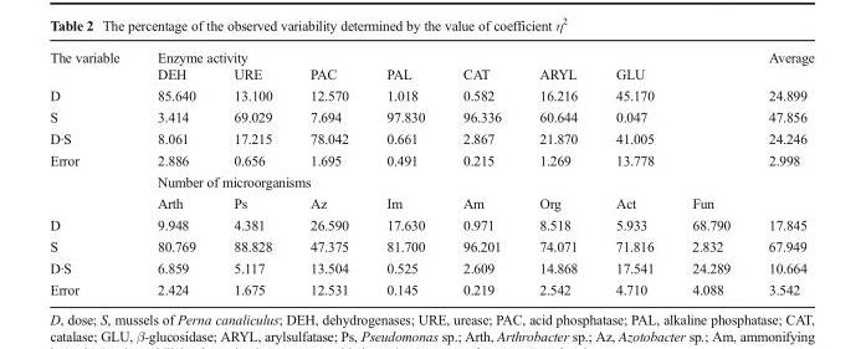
<table><tbody><tr><td rowspan="2">The variable</td><td colspan="8">Enzyme activity</td><td rowspan="2">Average</td></tr><tr><td>DEH</td><td>URE</td><td>PAC</td><td>PAL</td><td>CAT</td><td>ARYL</td><td colspan="2">GLU</td></tr><tr><td>D</td><td>85.640</td><td>13.100</td><td>12.570</td><td>1.018</td><td>0.582</td><td>16.216</td><td colspan="2">45.170</td><td>24.899</td></tr><tr><td>S</td><td>3.414</td><td>69.029</td><td>7.694</td><td>97.830</td><td>96.336</td><td>60.644</td><td colspan="2">0.047</td><td>47.856</td></tr><tr><td>D·S</td><td>8.061</td><td>17.215</td><td>78.042</td><td>0.661</td><td>2.867</td><td>21.870</td><td colspan="2">41.005</td><td>24.246</td></tr><tr><td rowspan="3">Error</td><td>2.886</td><td>0.656</td><td>1.695</td><td>0.491</td><td>0.215</td><td>1.269</td><td colspan="2">13.778</td><td>2.998</td></tr><tr><td colspan="9">Number of microorganisms</td></tr><tr><td>Arth</td><td>Ps</td><td>Az</td><td>Im</td><td>Am</td><td>Org</td><td>Act</td><td>Fun</td><td></td></tr><tr><td>D</td><td>9.948</td><td>4.381</td><td>26.590</td><td>17.630</td><td>0.971</td><td>8.518</td><td>5.933</td><td>68.790</td><td>17.845</td></tr><tr><td>S</td><td>80.769</td><td>88.828</td><td>47.375</td><td>81.700</td><td>96.201</td><td>74.071</td><td>71.816</td><td>2.832</td><td>67.949</td></tr><tr><td>D·S</td><td>6.859</td><td>5.117</td><td>13.504</td><td>0.525</td><td>2.609</td><td>14.868</td><td>17.541</td><td>24.289</td><td>10.664</td></tr><tr><td>Error</td><td>2.424</td><td>1.675</td><td>12.531</td><td>0.145</td><td>0.219</td><td>2.542</td><td>4.710</td><td>4.088</td><td>3.542</td></tr></tbody></table>